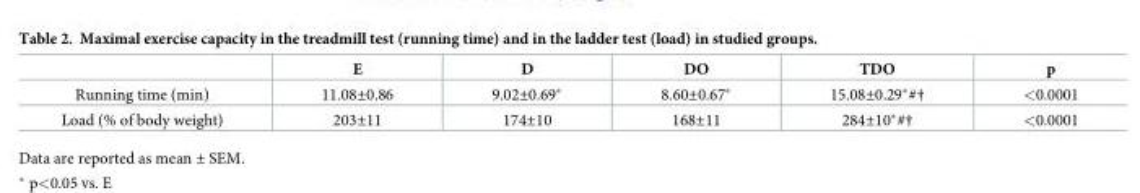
<table><thead><tr><td></td><td>E</td><td>D</td><td>DO</td><td>TDO</td><td>p</td></tr></thead><tbody><tr><td>Running time (min)</td><td>11.08±0.86</td><td>9.02±0.69*</td><td>8.60±0.67*</td><td>15.08±0.29*#†</td><td>&lt;0.0001</td></tr><tr><td>Load (% of body weight)</td><td>203±11</td><td>174±10</td><td>168±11</td><td>284±10*#†</td><td>&lt;0.0001</td></tr></tbody></table>